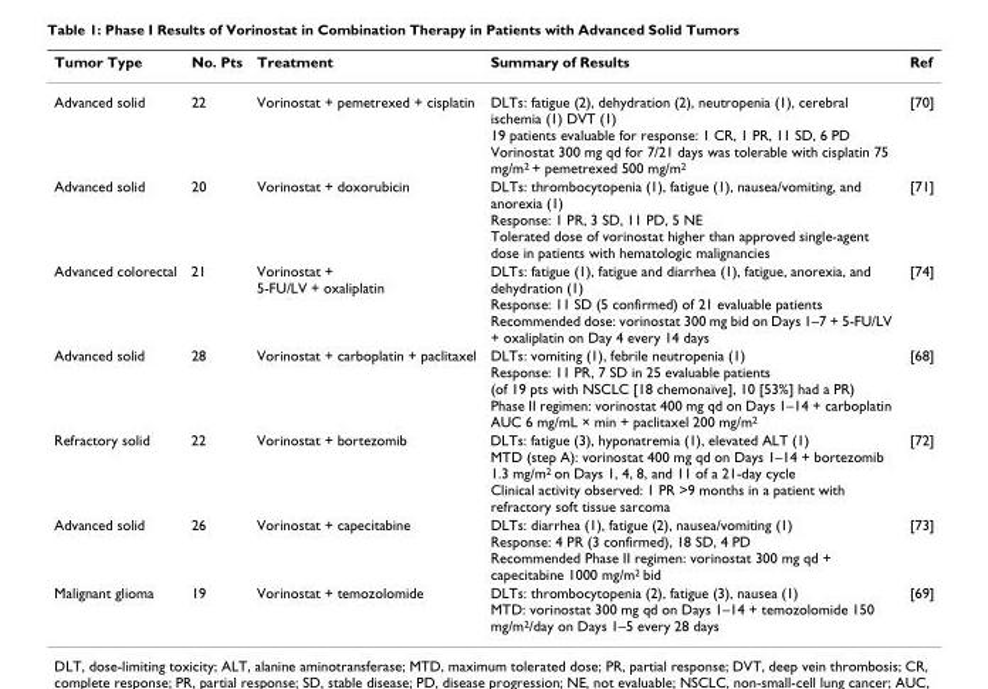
<table><thead><tr><td>Tumor Type</td><td>No. Pts</td><td>Treatment</td><td>Summary of Results</td><td>Ref</td></tr></thead><tbody><tr><td>Advanced solid</td><td>22</td><td>Vorinostat + pemetrexed + cisplatin</td><td>DLTs: fatigue (2), dehydration (2), neutropenia (1), cerebral ischemia (1) DVT (1) 19 patients evaluable for response: 1 CR, 1 PR, 11 SD, 6 PD Vorinostat 300 mg qd for 7/21 days was tolerable with cisplatin 75 mg/m<sup>2</sup> + pemetrexed 500 mg/m<sup>2</sup></td><td>[70]</td></tr><tr><td>Advanced solid</td><td>20</td><td>Vorinostat + doxorubicin</td><td>DLTs: thrombocytopenia (1), fatigue (1), nausea/vomiting, and anorexia (1) Response: 1 PR, 3 SD, 11 PD, 5 NE Tolerated dose of vorinostat higher than approved single-agent dose in patients with hematologic malignancies</td><td>[71]</td></tr><tr><td>Advanced colorectal</td><td>21</td><td>Vorinostat + 5-FU/LV + oxaliplatin</td><td>DLTs: fatigue (1), fatigue and diarrhea (1), fatigue, anorexia, and dehydration (1) Response: 11 SD (5 confirmed) of 21 evaluable patients Recommended dose: vorinostat 300 mg bid on Days 1–7 + 5-FU/LV + oxaliplatin on Day 4 every 14 days</td><td>[74]</td></tr><tr><td>Advanced solid</td><td>28</td><td>Vorinostat + carboplatin + paclitaxel</td><td>DLTs: vomiting (1), febrile neutropenia (1) Response: 11 PR, 7 SD in 25 evaluable patients (of 19 pts with NSCLC [18 chemonaïve], 10 [53%] had a PR) Phase II regimen: vorinostat 400 mg qd on Days 1–14 + carboplatin AUC 6 mg/mL × min + paclitaxel 200 mg/m<sup>2</sup></td><td>[68]</td></tr><tr><td>Refractory solid</td><td>22</td><td>Vorinostat + bortezomib</td><td>DLTs: fatigue (3), hyponatremia (1), elevated ALT (1) MTD (step A): vorinostat 400 mg qd on Days 1–14 + bortezomib 1.3 mg/m<sup>2</sup> on Days 1, 4, 8, and 11 of a 21-day cycle Clinical activity observed: 1 PR &gt;9 months in a patient with refractory soft tissue sarcoma</td><td>[72]</td></tr><tr><td>Advanced solid</td><td>26</td><td>Vorinostat + capecitabine</td><td>DLTs: diarrhea (1), fatigue (2), nausea/vomiting (1) Response: 4 PR (3 confirmed), 18 SD, 4 PD Recommended Phase II regimen: vorinostat 300 mg qd + capecitabine 1000 mg/m<sup>2</sup> bid</td><td>[73]</td></tr><tr><td>Malignant glioma</td><td>19</td><td>Vorinostat + temozolomide</td><td>DLTs: thrombocytopenia (2), fatigue (3), nausea (1) MTD: vorinostat 300 mg qd on Days 1–14 + temozolomide 150 mg/m<sup>2</sup>/day on Days 1–5 every 28 days</td><td>[69]</td></tr></tbody></table>